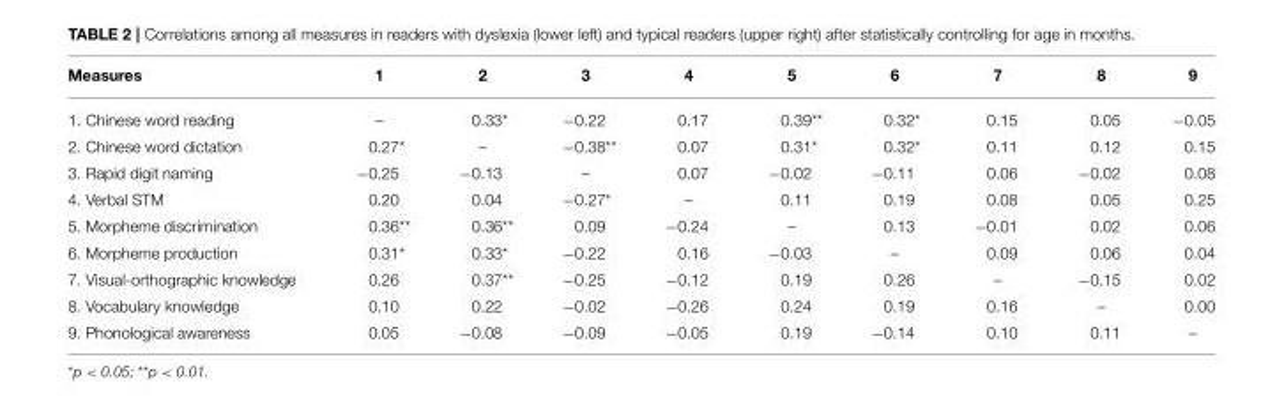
<table><thead><tr><td>Measures</td><td>1</td><td>2</td><td>3</td><td>4</td><td>5</td><td>6</td><td>7</td><td>8</td><td>9</td></tr></thead><tbody><tr><td>1. Chinese word reading</td><td>–</td><td>0.33*</td><td>−0.22</td><td>0.17</td><td>0.39**</td><td>0.32*</td><td>0.15</td><td>0.05</td><td>−0.05</td></tr><tr><td>2. Chinese word dictation</td><td>0.27*</td><td>–</td><td>−0.38**</td><td>0.07</td><td>0.31*</td><td>0.32*</td><td>0.11</td><td>0.12</td><td>0.15</td></tr><tr><td>3. Rapid digit naming</td><td>−0.25</td><td>−0.13</td><td>–</td><td>0.07</td><td>−0.02</td><td>−0.11</td><td>0.06</td><td>−0.02</td><td>0.08</td></tr><tr><td>4. Verbal STM</td><td>0.20</td><td>0.04</td><td>−0.27*</td><td>–</td><td>0.11</td><td>0.19</td><td>0.08</td><td>0.05</td><td>0.25</td></tr><tr><td>5. Morpheme discrimination</td><td>0.36**</td><td>0.36**</td><td>0.09</td><td>−0.24</td><td>–</td><td>0.13</td><td>−0.01</td><td>0.02</td><td>0.06</td></tr><tr><td>6. Morpheme production</td><td>0.31*</td><td>0.33*</td><td>−0.22</td><td>0.16</td><td>−0.03</td><td>–</td><td>0.09</td><td>0.06</td><td>0.04</td></tr><tr><td>7. Visual-orthographic knowledge</td><td>0.26</td><td>0.37**</td><td>−0.25</td><td>−0.12</td><td>0.19</td><td>0.26</td><td>–</td><td>−0.15</td><td>0.02</td></tr><tr><td>8. Vocabulary knowledge</td><td>0.10</td><td>0.22</td><td>−0.02</td><td>−0.26</td><td>0.24</td><td>0.19</td><td>0.16</td><td>–</td><td>0.00</td></tr><tr><td>9. Phonological awareness</td><td>0.05</td><td>−0.08</td><td>−0.09</td><td>−0.05</td><td>0.19</td><td>−0.14</td><td>0.10</td><td>0.11</td><td>–</td></tr></tbody></table>